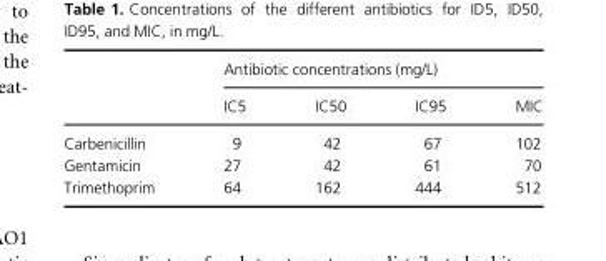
<table><thead><tr><td rowspan="2"></td><td colspan="4">Antibiotic concentrations (mg/L)</td></tr><tr><td>IC5</td><td>IC50</td><td>IC95</td><td>MIC</td></tr></thead><tbody><tr><td>Carbenicillin</td><td>9</td><td>42</td><td>67</td><td>102</td></tr><tr><td>Gentamicin</td><td>27</td><td>42</td><td>61</td><td>70</td></tr><tr><td>Trimethoprim</td><td>64</td><td>162</td><td>444</td><td>512</td></tr></tbody></table>